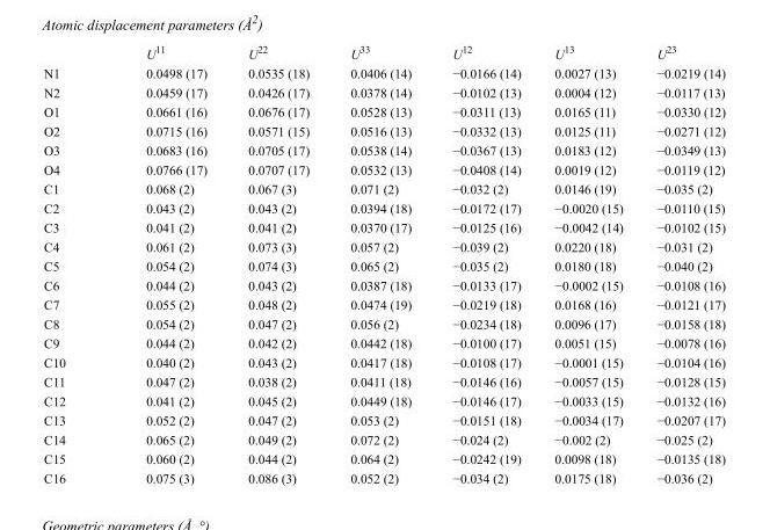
<table><thead><tr><td></td><td>U<sup>11</sup></td><td>U<sup>22</sup></td><td>U<sup>33</sup></td><td>U<sup>12</sup></td><td>U<sup>13</sup></td><td>U<sup>23</sup></td></tr></thead><tbody><tr><td>N1</td><td>0.0498 (17)</td><td>0.0535 (18)</td><td>0.0406 (14)</td><td>−0.0166 (14)</td><td>0.0027 (13)</td><td>−0.0219 (14)</td></tr><tr><td>N2</td><td>0.0459 (17)</td><td>0.0426 (17)</td><td>0.0378 (14)</td><td>−0.0102 (13)</td><td>0.0004 (12)</td><td>−0.0117 (13)</td></tr><tr><td>O1</td><td>0.0661 (16)</td><td>0.0676 (17)</td><td>0.0528 (13)</td><td>−0.0311 (13)</td><td>0.0165 (11)</td><td>−0.0330 (12)</td></tr><tr><td>O2</td><td>0.0715 (16)</td><td>0.0571 (15)</td><td>0.0516 (13)</td><td>−0.0332 (13)</td><td>0.0125 (11)</td><td>−0.0271 (12)</td></tr><tr><td>O3</td><td>0.0683 (16)</td><td>0.0705 (17)</td><td>0.0538 (14)</td><td>−0.0367 (13)</td><td>0.0183 (12)</td><td>−0.0349 (13)</td></tr><tr><td>O4</td><td>0.0766 (17)</td><td>0.0707 (17)</td><td>0.0532 (13)</td><td>−0.0408 (14)</td><td>0.0019 (12)</td><td>−0.0119 (12)</td></tr><tr><td>C1</td><td>0.068 (2)</td><td>0.067 (3)</td><td>0.071 (2)</td><td>−0.032 (2)</td><td>0.0146 (19)</td><td>−0.035 (2)</td></tr><tr><td>C2</td><td>0.043 (2)</td><td>0.043 (2)</td><td>0.0394 (18)</td><td>−0.0172 (17)</td><td>−0.0020 (15)</td><td>−0.0110 (15)</td></tr><tr><td>C3</td><td>0.041 (2)</td><td>0.041 (2)</td><td>0.0370 (17)</td><td>−0.0125 (16)</td><td>−0.0042 (14)</td><td>−0.0102 (15)</td></tr><tr><td>C4</td><td>0.061 (2)</td><td>0.073 (3)</td><td>0.057 (2)</td><td>−0.039 (2)</td><td>0.0220 (18)</td><td>−0.031 (2)</td></tr><tr><td>C5</td><td>0.054 (2)</td><td>0.074 (3)</td><td>0.065 (2)</td><td>−0.035 (2)</td><td>0.0180 (18)</td><td>−0.040 (2)</td></tr><tr><td>C6</td><td>0.044 (2)</td><td>0.043 (2)</td><td>0.0387 (18)</td><td>−0.0133 (17)</td><td>−0.0002 (15)</td><td>−0.0108 (16)</td></tr><tr><td>C7</td><td>0.055 (2)</td><td>0.048 (2)</td><td>0.0474 (19)</td><td>−0.0219 (18)</td><td>0.0168 (16)</td><td>−0.0121 (17)</td></tr><tr><td>C8</td><td>0.054 (2)</td><td>0.047 (2)</td><td>0.056 (2)</td><td>−0.0234 (18)</td><td>0.0096 (17)</td><td>−0.0158 (18)</td></tr><tr><td>C9</td><td>0.044 (2)</td><td>0.042 (2)</td><td>0.0442 (18)</td><td>−0.0100 (17)</td><td>0.0051 (15)</td><td>−0.0078 (16)</td></tr><tr><td>C10</td><td>0.040 (2)</td><td>0.043 (2)</td><td>0.0417 (18)</td><td>−0.0108 (17)</td><td>−0.0001 (15)</td><td>−0.0104 (16)</td></tr><tr><td>C11</td><td>0.047 (2)</td><td>0.038 (2)</td><td>0.0411 (18)</td><td>−0.0146 (16)</td><td>−0.0057 (15)</td><td>−0.0128 (15)</td></tr><tr><td>C12</td><td>0.041 (2)</td><td>0.045 (2)</td><td>0.0449 (18)</td><td>−0.0146 (17)</td><td>−0.0033 (15)</td><td>−0.0132 (16)</td></tr><tr><td>C13</td><td>0.052 (2)</td><td>0.047 (2)</td><td>0.053 (2)</td><td>−0.0151 (18)</td><td>−0.0034 (17)</td><td>−0.0207 (17)</td></tr><tr><td>C14</td><td>0.065 (2)</td><td>0.049 (2)</td><td>0.072 (2)</td><td>−0.024 (2)</td><td>−0.002 (2)</td><td>−0.025 (2)</td></tr><tr><td>C15</td><td>0.060 (2)</td><td>0.044 (2)</td><td>0.064 (2)</td><td>−0.0242 (19)</td><td>0.0098 (18)</td><td>−0.0135 (18)</td></tr><tr><td>C16</td><td>0.075 (3)</td><td>0.086 (3)</td><td>0.052 (2)</td><td>−0.034 (2)</td><td>0.0175 (18)</td><td>−0.036 (2)</td></tr></tbody></table>